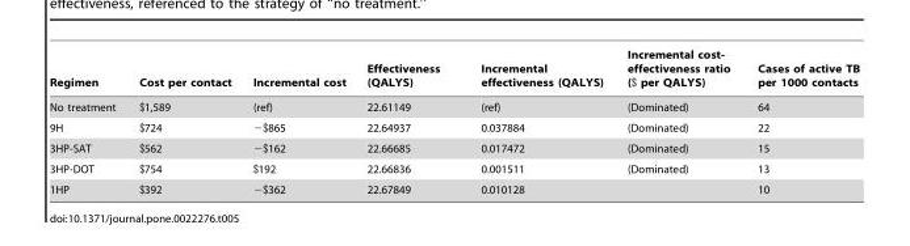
<table><thead><tr><td>Regimen</td><td>Cost per contact</td><td>Incremental cost</td><td>Effectiveness (QALYS)</td><td>Incremental effectiveness (QALYS)</td><td>Incremental cost- effectiveness ratio ($ per QALYS)</td><td>Cases of active TB per 1000 contacts</td></tr></thead><tbody><tr><td>No treatment</td><td>$1,589</td><td>(ref)</td><td>22.61149</td><td>(ref)</td><td>(Dominated)</td><td>64</td></tr><tr><td>9H</td><td>$724</td><td>−$865</td><td>22.64937</td><td>0.037884</td><td>(Dominated)</td><td>22</td></tr><tr><td>3HP-SAT</td><td>$562</td><td>−$162</td><td>22.66685</td><td>0.017472</td><td>(Dominated)</td><td>15</td></tr><tr><td>3HP-DOT</td><td>$754</td><td>$192</td><td>22.66836</td><td>0.001511</td><td>(Dominated)</td><td>13</td></tr><tr><td>1HP</td><td>$392</td><td>−$362</td><td>22.67849</td><td>0.010128</td><td></td><td>10</td></tr></tbody></table>